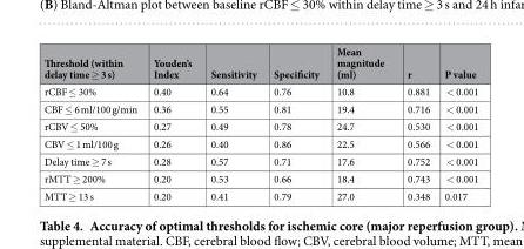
<table><thead><tr><td>Threshold (within delay time ≥ 3 s)</td><td>Youden’s Index</td><td>Sensitivity</td><td>Specificity</td><td>Mean magnitude (ml)</td><td>r</td><td>P value</td></tr></thead><tbody><tr><td>rCBF ≤ 30%</td><td>0.40</td><td>0.64</td><td>0.76</td><td>10.8</td><td>0.881</td><td>&lt; 0.001</td></tr><tr><td>CBF ≤ 6 ml/100 g/min</td><td>0.36</td><td>0.55</td><td>0.81</td><td>19.4</td><td>0.716</td><td>&lt; 0.001</td></tr><tr><td>rCBV ≤ 50%</td><td>0.27</td><td>0.49</td><td>0.78</td><td>24.7</td><td>0.530</td><td>&lt; 0.001</td></tr><tr><td>CBV ≤ 1 ml/100 g</td><td>0.26</td><td>0.40</td><td>0.86</td><td>22.5</td><td>0.566</td><td>&lt; 0.001</td></tr><tr><td>Delay time ≥ 7 s</td><td>0.28</td><td>0.57</td><td>0.71</td><td>17.6</td><td>0.752</td><td>&lt; 0.001</td></tr><tr><td>rMTT ≥ 200%</td><td>0.20</td><td>0.53</td><td>0.66</td><td>18.4</td><td>0.743</td><td>&lt; 0.001</td></tr><tr><td>MTT ≥ 13 s</td><td>0.20</td><td>0.41</td><td>0.79</td><td>27.0</td><td>0.348</td><td>0.017</td></tr></tbody></table>